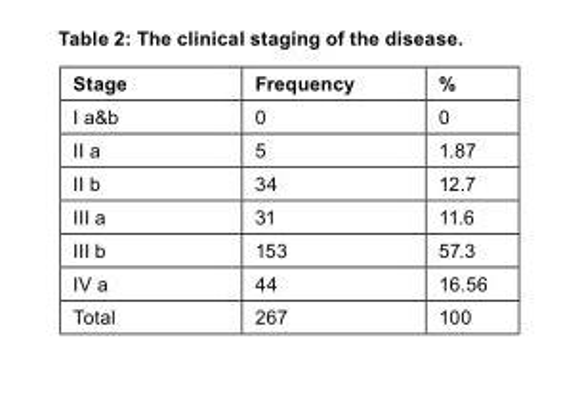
<table><thead><tr><td>Stage</td><td>Frequency</td><td>%</td></tr></thead><tbody><tr><td>I a&amp;b</td><td>0</td><td>0</td></tr><tr><td>II a</td><td>5</td><td>1.87</td></tr><tr><td>II b</td><td>34</td><td>12.7</td></tr><tr><td>III a</td><td>31</td><td>11.6</td></tr><tr><td>III b</td><td>153</td><td>57.3</td></tr><tr><td>IV a</td><td>44</td><td>16.56</td></tr><tr><td>Total</td><td>267</td><td>100</td></tr></tbody></table>